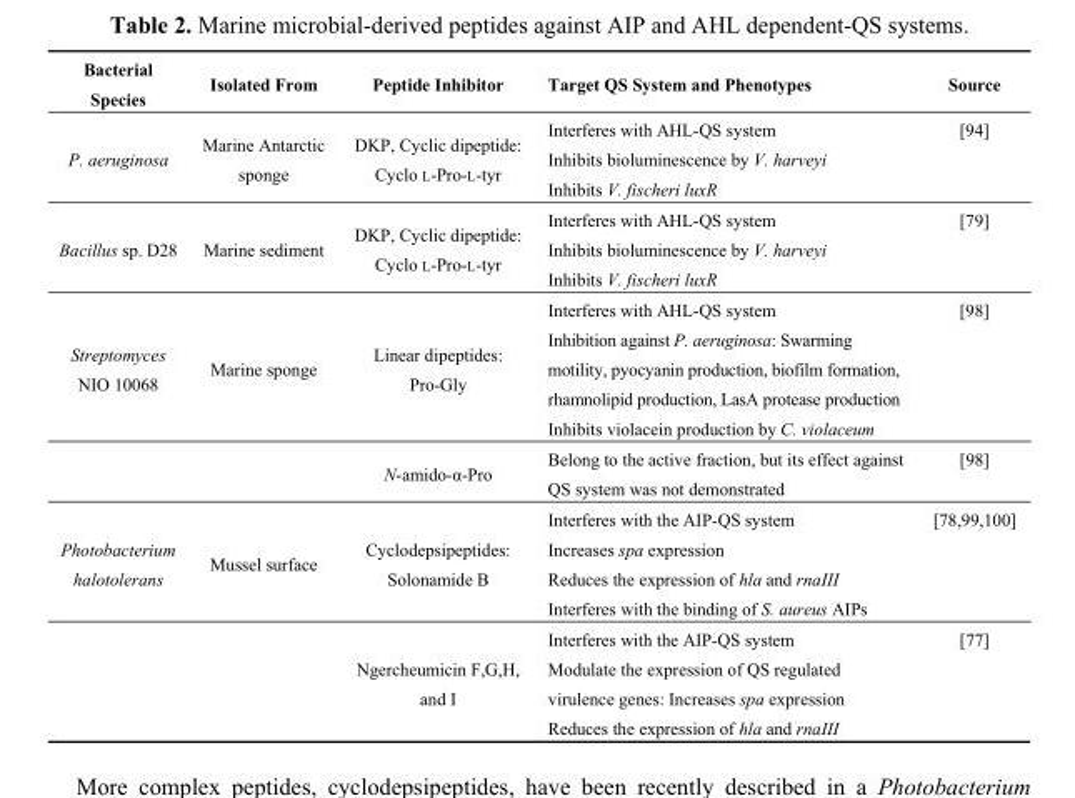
<table><thead><tr><td>Bacterial Species</td><td>Isolated From</td><td>Peptide Inhibitor</td><td>Target QS System and Phenotypes</td><td>Source</td></tr></thead><tbody><tr><td rowspan="3">P. aeruginosa</td><td rowspan="3">Marine Antarctic sponge</td><td rowspan="3">DKP, Cyclic dipeptide: Cyclo L-Pro-L-tyr</td><td>Interferes with AHL-QS system</td><td>[94]</td></tr><tr><td>Inhibits bioluminescence by V. harveyi</td><td rowspan="2"></td></tr><tr><td>Inhibits V. fischeri luxR</td></tr><tr><td rowspan="3">Bacillus sp. D28</td><td rowspan="3">Marine sediment</td><td rowspan="3">DKP, Cyclic dipeptide: Cyclo L-Pro-L-tyr</td><td>Interferes with AHL-QS system</td><td>[79]</td></tr><tr><td>Inhibits bioluminescence by V. harveyi</td><td rowspan="2"></td></tr><tr><td>Inhibits V. fischeri luxR</td></tr><tr><td rowspan="4">Streptomyces NIO 10068</td><td rowspan="3">Marine sponge</td><td rowspan="3">Linear dipeptides: Pro-Gly</td><td>Interferes with AHL-QS system</td><td>[98]</td></tr><tr><td>Inhibition against P. aeruginosa: Swarming motility, pyocyanin production, biofilm formation, rhamnolipid production, LasA protease production</td><td rowspan="2"></td></tr><tr><td>Inhibits violacein production by C. violaceum</td></tr><tr><td></td><td>N-amido-α-Pro</td><td>Belong to the active fraction, but its effect against QS system was not demonstrated</td><td>[98]</td></tr><tr><td rowspan="7">Photobacterium halotolerans</td><td rowspan="4">Mussel surface</td><td rowspan="4">Cyclodepsipeptides: Solonamide B</td><td>Interferes with the AIP-QS system</td><td>[78,99,100]</td></tr><tr><td>Increases spa expression</td><td rowspan="3"></td></tr><tr><td>Reduces the expression of hla and rnaIII</td></tr><tr><td>Interferes with the binding of S. aureus AIPs</td></tr><tr><td rowspan="3"></td><td rowspan="3">Ngercheumicin F,G,H, and I</td><td>Interferes with the AIP-QS system</td><td>[77]</td></tr><tr><td>Modulate the expression of QS regulated virulence genes: Increases spa expression</td><td rowspan="2"></td></tr><tr><td>Reduces the expression of hla and rnaIII</td></tr></tbody></table>